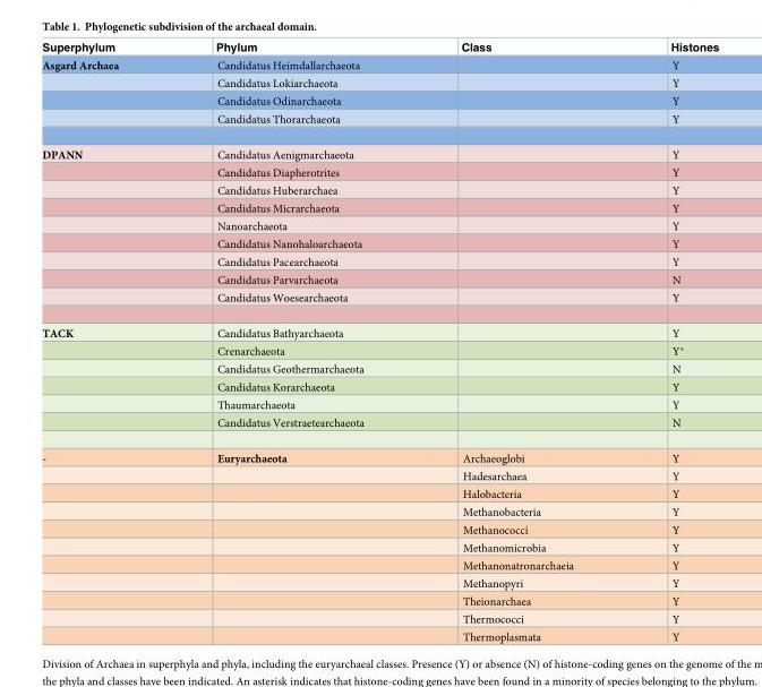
<table><thead><tr><td>Superphylum</td><td>Phylum</td><td>Class</td><td>Histones</td></tr></thead><tbody><tr><td rowspan="4">Asgard Archaea</td><td>Candidatus Heimdallarchaeota</td><td></td><td>Y</td></tr><tr><td>Candidatus Lokiarchaeota</td><td></td><td>Y</td></tr><tr><td>Candidatus Odinarchaeota</td><td></td><td>Y</td></tr><tr><td>Candidatus Thorarchaeota</td><td></td><td>Y</td></tr><tr><td rowspan="9">DPANN</td><td>Candidatus Aenigmarchaeota</td><td></td><td>Y</td></tr><tr><td>Candidatus Diapherotrites</td><td></td><td>Y</td></tr><tr><td>Candidatus Huberarchaea</td><td></td><td>Y</td></tr><tr><td>Candidatus Micrarchaeota</td><td></td><td>Y</td></tr><tr><td>Nanoarchaeota</td><td></td><td>Y</td></tr><tr><td>Candidatus Nanohaloarchaeota</td><td></td><td>Y</td></tr><tr><td>Candidatus Pacearchaeota</td><td></td><td>Y</td></tr><tr><td>Candidatus Parvarchaeota</td><td></td><td>N</td></tr><tr><td>Candidatus Woesearchaeota</td><td></td><td>Y</td></tr><tr><td rowspan="6">TACK</td><td>Candidatus Bathyarchaeota</td><td></td><td>Y</td></tr><tr><td>Crenarchaeota</td><td></td><td>Y*</td></tr><tr><td>Candidatus Geothermarchaeota</td><td></td><td>N</td></tr><tr><td>Candidatus Korarchaeota</td><td></td><td>Y</td></tr><tr><td>Thaumarchaeota</td><td></td><td>Y</td></tr><tr><td>Candidatus Verstraetearchaeota</td><td></td><td>N</td></tr><tr><td rowspan="11">-</td><td>Euryarchaeota</td><td>Archaeoglobi</td><td>Y</td></tr><tr><td></td><td>Hadesarchaea</td><td>Y</td></tr><tr><td></td><td>Halobacteria</td><td>Y</td></tr><tr><td></td><td>Methanobacteria</td><td>Y</td></tr><tr><td></td><td>Methanococci</td><td>Y</td></tr><tr><td></td><td>Methanomicrobia</td><td>Y</td></tr><tr><td></td><td>Methanonatronarchaeia</td><td>Y</td></tr><tr><td></td><td>Methanopyri</td><td>Y</td></tr><tr><td></td><td>Theionarchaea</td><td>Y</td></tr><tr><td></td><td>Thermococci</td><td>Y</td></tr><tr><td></td><td>Thermoplasmata</td><td>Y</td></tr></tbody></table>